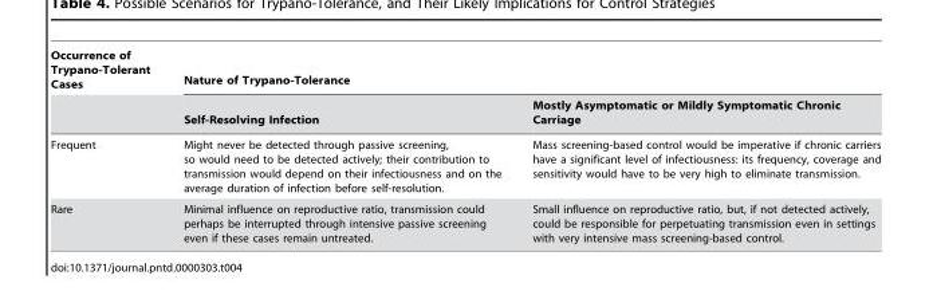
<table><thead><tr><td rowspan="2">Occurrence of Trypano-Tolerant Cases</td><td colspan="2">Nature of Trypano-Tolerance</td></tr><tr><td>Self-Resolving Infection</td><td>Mostly Asymptomatic or Mildly Symptomatic Chronic Carriage</td></tr></thead><tbody><tr><td>Frequent</td><td>Might never be detected through passive screening, so would need to be detected actively; their contribution to transmission would depend on their infectiousness and on the average duration of infection before self-resolution.</td><td>Mass screening-based control would be imperative if chronic carriers have a significant level of infectiousness: its frequency, coverage and sensitivity would have to be very high to eliminate transmission.</td></tr><tr><td>Rare</td><td>Minimal influence on reproductive ratio, transmission could perhaps be interrupted through intensive passive screening even if these cases remain untreated.</td><td>Small influence on reproductive ratio, but, if not detected actively, could be responsible for perpetuating transmission even in settings with very intensive mass screening-based control.</td></tr></tbody></table>